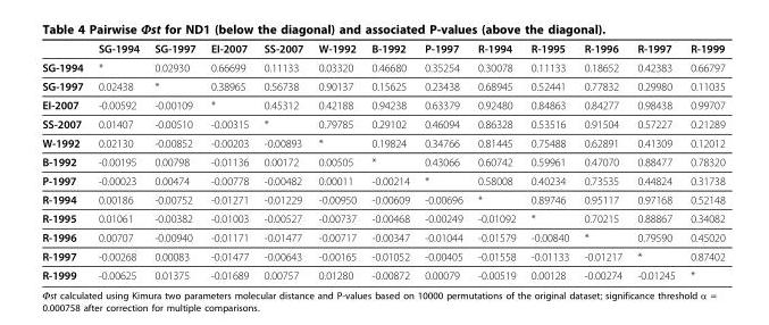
<table><thead><tr><td></td><td>SG-1994</td><td>SG-1997</td><td>EI-2007</td><td>SS-2007</td><td>W-1992</td><td>B-1992</td><td>P-1997</td><td>R-1994</td><td>R-1995</td><td>R-1996</td><td>R-1997</td><td>R-1999</td></tr></thead><tbody><tr><td>SG-1994</td><td>*</td><td>0.02930</td><td>0.66699</td><td>0.11133</td><td>0.03320</td><td>0.46680</td><td>0.35254</td><td>0.30078</td><td>0.11133</td><td>0.18652</td><td>0.42383</td><td>0.66797</td></tr><tr><td>SG-1997</td><td>0.02438</td><td>*</td><td>0.38965</td><td>0.56738</td><td>0.90137</td><td>0.15625</td><td>0.23438</td><td>0.68945</td><td>0.52441</td><td>0.77832</td><td>0.29980</td><td>0.11035</td></tr><tr><td>EI-2007</td><td>-0.00592</td><td>-0.00109</td><td>*</td><td>0.45312</td><td>0.42188</td><td>0.94238</td><td>0.63379</td><td>0.92480</td><td>0.84863</td><td>0.84277</td><td>0.98438</td><td>0.99707</td></tr><tr><td>SS-2007</td><td>0.01407</td><td>-0.00510</td><td>-0.00315</td><td>*</td><td>0.79785</td><td>0.29102</td><td>0.46094</td><td>0.86328</td><td>0.53516</td><td>0.91504</td><td>0.57227</td><td>0.21289</td></tr><tr><td>W-1992</td><td>0.02130</td><td>-0.00852</td><td>-0.00203</td><td>-0.00893</td><td>*</td><td>0.19824</td><td>0.34766</td><td>0.81445</td><td>0.75488</td><td>0.62891</td><td>0.41309</td><td>0.12012</td></tr><tr><td>B-1992</td><td>-0.00195</td><td>0.00798</td><td>-0.01136</td><td>0.00172</td><td>0.00505</td><td>*</td><td>0.43066</td><td>0.60742</td><td>0.59961</td><td>0.47070</td><td>0.88477</td><td>0.78320</td></tr><tr><td>P-1997</td><td>-0.00023</td><td>0.00474</td><td>-0.00778</td><td>-0.00482</td><td>0.00011</td><td>-0.00214</td><td>*</td><td>0.58008</td><td>0.40234</td><td>0.73535</td><td>0.44824</td><td>0.31738</td></tr><tr><td>R-1994</td><td>0.00186</td><td>-0.00752</td><td>-0.01271</td><td>-0.01229</td><td>-0.00950</td><td>-0.00609</td><td>-0.00696</td><td>*</td><td>0.89746</td><td>0.95117</td><td>0.97168</td><td>0.52148</td></tr><tr><td>R-1995</td><td>0.01061</td><td>-0.00382</td><td>-0.01003</td><td>-0.00527</td><td>-0.00737</td><td>-0.00468</td><td>-0.00249</td><td>-0.01092</td><td>*</td><td>0.70215</td><td>0.88867</td><td>0.34082</td></tr><tr><td>R-1996</td><td>0.00707</td><td>-0.00940</td><td>-0.01171</td><td>-0.01477</td><td>-0.00717</td><td>-0.00347</td><td>-0.01044</td><td>-0.01579</td><td>-0.00840</td><td>*</td><td>0.79590</td><td>0.45020</td></tr><tr><td>R-1997</td><td>-0.00268</td><td>0.00083</td><td>-0.01477</td><td>-0.00643</td><td>-0.00165</td><td>-0.01052</td><td>-0.00405</td><td>-0.01558</td><td>-0.01133</td><td>-0.01217</td><td>*</td><td>0.87402</td></tr><tr><td>R-1999</td><td>-0.00625</td><td>0.01375</td><td>-0.01689</td><td>0.00757</td><td>0.01280</td><td>-0.00872</td><td>0.00079</td><td>-0.00519</td><td>0.00128</td><td>-0.00274</td><td>-0.01245</td><td>*</td></tr></tbody></table>